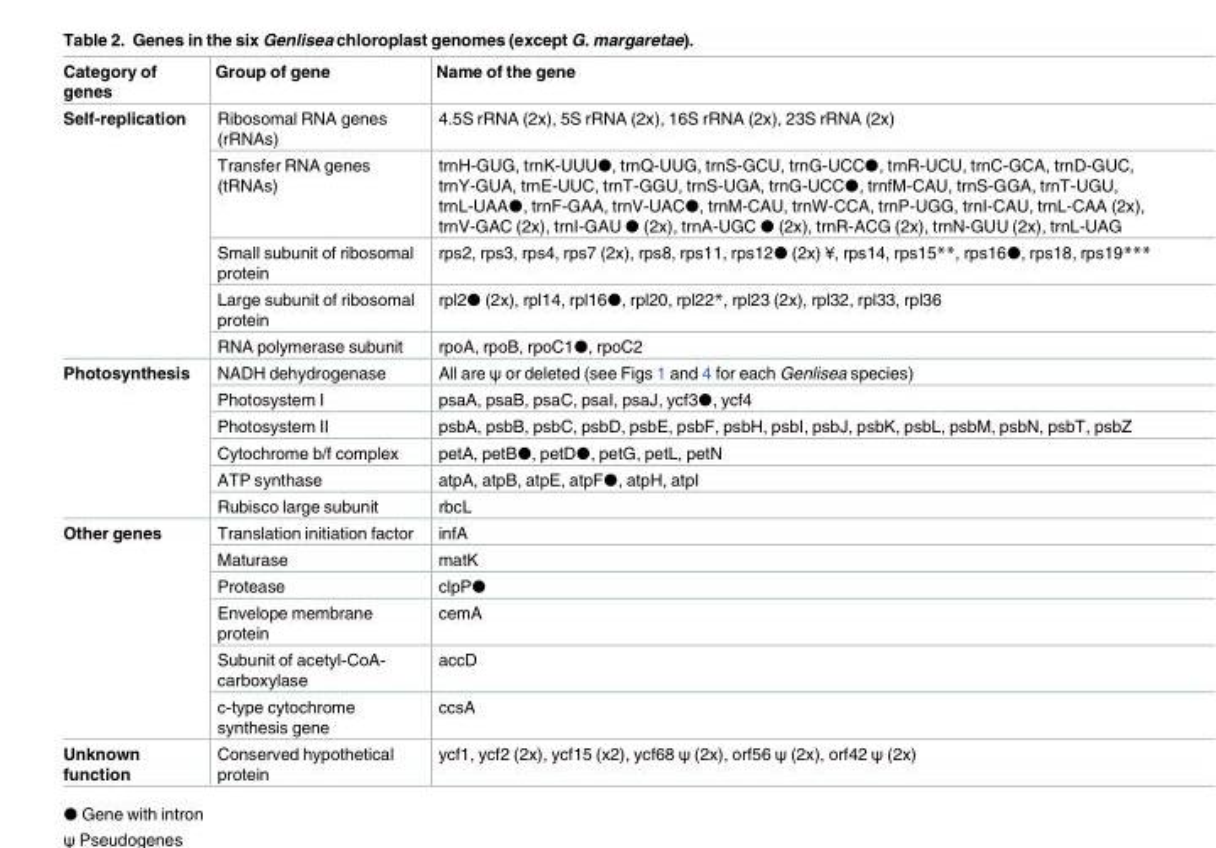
<table><thead><tr><td>Category of genes</td><td>Group of gene</td><td>Name of the gene</td></tr></thead><tbody><tr><td rowspan="5">Self-replication</td><td>Ribosomal RNA genes (rRNAs)</td><td>4.5S rRNA (2x), 5S rRNA (2x), 16S rRNA (2x), 23S rRNA (2x)</td></tr><tr><td>Transfer RNA genes (tRNAs)</td><td>trnH-GUG, trnK-UUU●, trnQ-UUG, trnS-GCU, trnG-UCC●, trnR-UCU, trnC-GCA, trnD-GUC, trnY-GUA, trnE-UUC, trnT-GGU, trnS-UGA, trnG-UCC●, trnfM-CAU, trnS-GGA, trnT-UGU, trnL-UAA●, trnF-GAA, trnV-UAC●, trnM-CAU, trnW-CCA, trnP-UGG, trnI-CAU, trnL-CAA (2x), trnV-GAC (2x), trnI-GAU ● (2x), trnA-UGC ● (2x), trnR-ACG (2x), trnN-GUU (2x), trnL-UAG</td></tr><tr><td>Small subunit of ribosomal protein</td><td>rps2, rps3, rps4, rps7 (2x), rps8, rps11, rps12● (2x) ¥, rps14, rps15**, rps16●, rps18, rps19***</td></tr><tr><td>Large subunit of ribosomal protein</td><td>rpl2● (2x), rpl14, rpl16●, rpl20, rpl22*, rpl23 (2x), rpl32, rpl33, rpl36</td></tr><tr><td>RNA polymerase subunit</td><td>rpoA, rpoB, rpoC1●, rpoC2</td></tr><tr><td rowspan="6">Photosynthesis</td><td>NADH dehydrogenase</td><td>All are ψ or deleted (see Figs 1 and 4 for each Genlisea species)</td></tr><tr><td>Photosystem I</td><td>psaA, psaB, psaC, psaI, psaJ, ycf3●, ycf4</td></tr><tr><td>Photosystem II</td><td>psbA, psbB, psbC, psbD, psbE, psbF, psbH, psbI, psbJ, psbK, psbL, psbM, psbN, psbT, psbZ</td></tr><tr><td>Cytochrome b/f complex</td><td>petA, petB●, petD●, petG, petL, petN</td></tr><tr><td>ATP synthase</td><td>atpA, atpB, atpE, atpF●, atpH, atpI</td></tr><tr><td>Rubisco large subunit</td><td>rbcL</td></tr><tr><td rowspan="6">Other genes</td><td>Translation initiation factor</td><td>infA</td></tr><tr><td>Maturase</td><td>matK</td></tr><tr><td>Protease</td><td>clpP●</td></tr><tr><td>Envelope membrane protein</td><td>cemA</td></tr><tr><td>Subunit of acetyl-CoA- carboxylase</td><td>accD</td></tr><tr><td>c-type cytochrome synthesis gene</td><td>ccsA</td></tr><tr><td>Unknown function</td><td>Conserved hypothetical protein</td><td>ycf1, ycf2 (2x), ycf15 (x2), ycf68 ψ (2x), orf56 ψ (2x), orf42 ψ (2x)</td></tr></tbody></table>